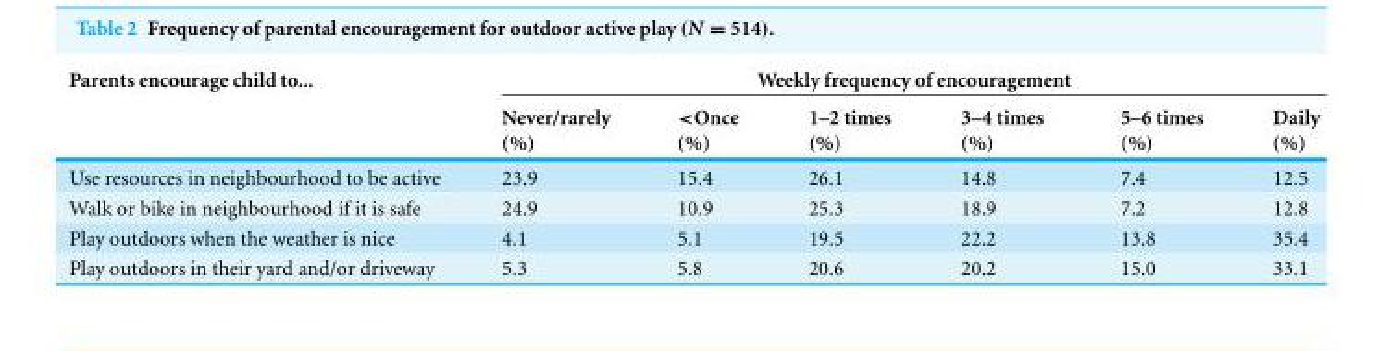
<table><thead><tr><td rowspan="2">Parents encourage child to...</td><td colspan="6">Weekly frequency of encouragement</td></tr><tr><td>Never/rarely (%)</td><td>&lt;Once (%)</td><td>1–2 times (%)</td><td>3–4 times (%)</td><td>5–6 times (%)</td><td>Daily (%)</td></tr></thead><tbody><tr><td>Use resources in neighbourhood to be active</td><td>23.9</td><td>15.4</td><td>26.1</td><td>14.8</td><td>7.4</td><td>12.5</td></tr><tr><td>Walk or bike in neighbourhood if it is safe</td><td>24.9</td><td>10.9</td><td>25.3</td><td>18.9</td><td>7.2</td><td>12.8</td></tr><tr><td>Play outdoors when the weather is nice</td><td>4.1</td><td>5.1</td><td>19.5</td><td>22.2</td><td>13.8</td><td>35.4</td></tr><tr><td>Play outdoors in their yard and/or driveway</td><td>5.3</td><td>5.8</td><td>20.6</td><td>20.2</td><td>15.0</td><td>33.1</td></tr></tbody></table>